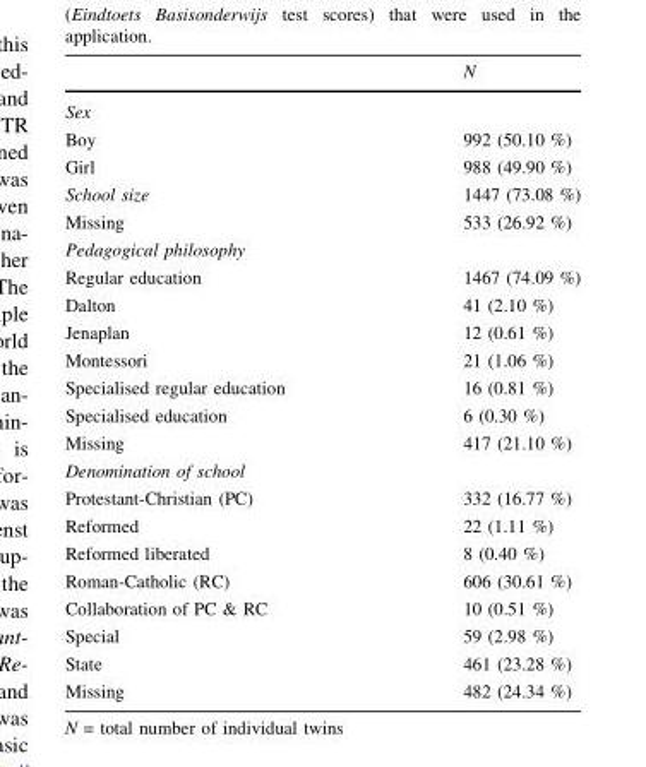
<table><thead><tr><td></td><td>N</td></tr></thead><tbody><tr><td colspan="2">Sex</td></tr><tr><td>Boy</td><td>992 (50.10 %)</td></tr><tr><td>Girl</td><td>988 (49.90 %)</td></tr><tr><td>School size</td><td>1447 (73.08 %)</td></tr><tr><td>Missing</td><td>533 (26.92 %)</td></tr><tr><td colspan="2">Pedagogical philosophy</td></tr><tr><td>Regular education</td><td>1467 (74.09 %)</td></tr><tr><td>Dalton</td><td>41 (2.10 %)</td></tr><tr><td>Jenaplan</td><td>12 (0.61 %)</td></tr><tr><td>Montessori</td><td>21 (1.06 %)</td></tr><tr><td>Specialised regular education</td><td>16 (0.81 %)</td></tr><tr><td>Specialised education</td><td>6 (0.30 %)</td></tr><tr><td>Missing</td><td>417 (21.10 %)</td></tr><tr><td colspan="2">Denomination of school</td></tr><tr><td>Protestant-Christian (PC)</td><td>332 (16.77 %)</td></tr><tr><td>Reformed</td><td>22 (1.11 %)</td></tr><tr><td>Reformed liberated</td><td>8 (0.40 %)</td></tr><tr><td>Roman-Catholic (RC)</td><td>606 (30.61 %)</td></tr><tr><td>Collaboration of PC &amp; RC</td><td>10 (0.51 %)</td></tr><tr><td>Special</td><td>59 (2.98 %)</td></tr><tr><td>State</td><td>461 (23.28 %)</td></tr><tr><td>Missing</td><td>482 (24.34 %)</td></tr></tbody></table>